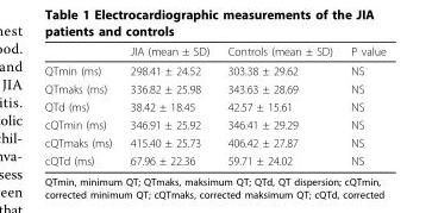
<table><thead><tr><td></td><td>JIA (mean ± SD)</td><td>Controls (mean ± SD)</td><td>P value</td></tr></thead><tbody><tr><td>QTmin (ms)</td><td>298.41 ± 24.52</td><td>303.38 ± 29.62</td><td>NS</td></tr><tr><td>QTmaks (ms)</td><td>336.82 ± 25.98</td><td>343.63 ± 28.69</td><td>NS</td></tr><tr><td>QTd (ms)</td><td>38.42 ± 18.45</td><td>42.57 ± 15.61</td><td>NS</td></tr><tr><td>cQTmin (ms)</td><td>346.91 ± 25.92</td><td>346.41 ± 29.29</td><td>NS</td></tr><tr><td>cQTmaks (ms)</td><td>415.40 ± 25.73</td><td>406.42 ± 27.87</td><td>NS</td></tr><tr><td>cQTd (ms)</td><td>67.96 ± 22.36</td><td>59.71 ± 24.02</td><td>NS</td></tr></tbody></table>